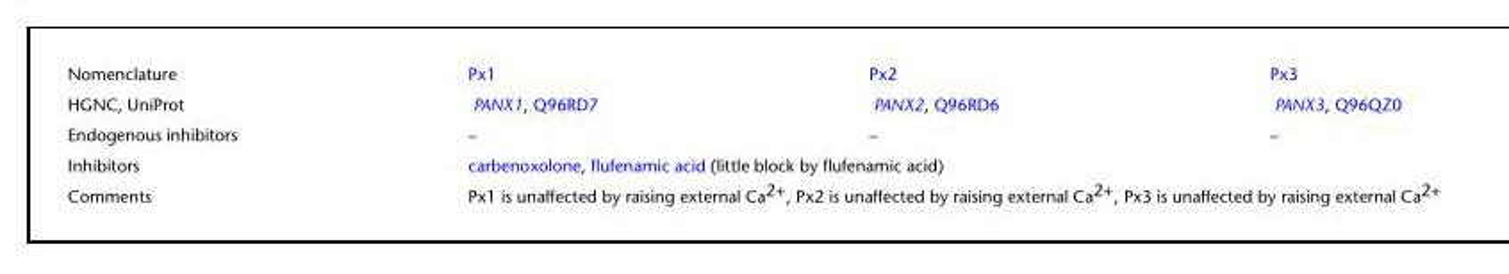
<table><tbody><tr><td>Nomenclature</td><td>Px1</td><td>Px2</td><td>Px3</td></tr><tr><td>HGNC, UniProt</td><td>PANX1, Q96RD7</td><td>PANX2, Q96RD6</td><td>PANX3, Q96QZ0</td></tr><tr><td>Endogenous inhibitors</td><td>–</td><td>–</td><td>–</td></tr><tr><td>Inhibitors</td><td colspan="2">carbenoxolone, flufenamic acid (little block by flufenamic acid)</td><td></td></tr><tr><td>Comments</td><td>Px1 is unaffected by raising external Ca2+,</td><td>Px2 is unaffected by raising external Ca2+,</td><td>Px3 is unaffected by raising external Ca<sup>2+</sup></td></tr></tbody></table>